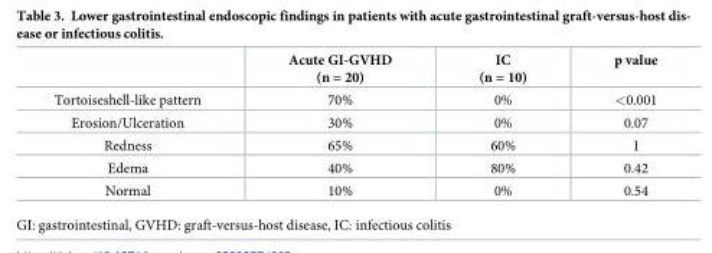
<table><thead><tr><td></td><td>Acute GI-GVHD (n = 20)</td><td>IC (n = 10)</td><td>p value</td></tr></thead><tbody><tr><td>Tortoiseshell-like pattern</td><td>70%</td><td>0%</td><td>&lt;0.001</td></tr><tr><td>Erosion/Ulceration</td><td>30%</td><td>0%</td><td>0.07</td></tr><tr><td>Redness</td><td>65%</td><td>60%</td><td>1</td></tr><tr><td>Edema</td><td>40%</td><td>80%</td><td>0.42</td></tr><tr><td>Normal</td><td>10%</td><td>0%</td><td>0.54</td></tr></tbody></table>